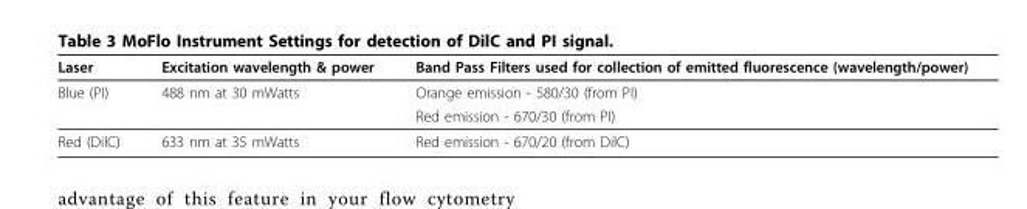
<table><thead><tr><td>Laser</td><td>Excitation wavelength &amp; power</td><td>Band Pass Filters used for collection of emitted fluorescence (wavelength/power)</td></tr></thead><tbody><tr><td rowspan="2">Blue (PI)</td><td>488 nm at 30 mWatts</td><td>Orange emission - 580/30 (from PI)</td></tr><tr><td></td><td>Red emission - 670/30 (from PI)</td></tr><tr><td>Red (DilC)</td><td>633 nm at 35 mWatts</td><td>Red emission - 670/20 (from DilC)</td></tr></tbody></table>